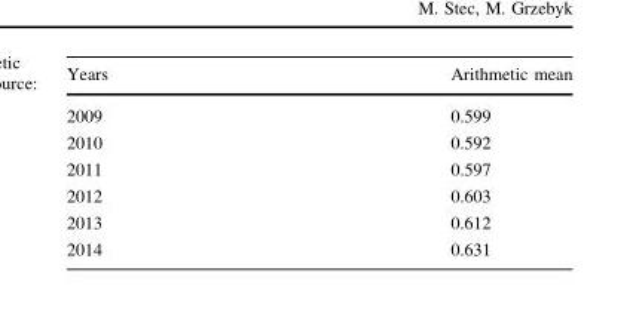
<table><thead><tr><td>Years</td><td>Arithmetic mean</td></tr></thead><tbody><tr><td>2009</td><td>0.599</td></tr><tr><td>2010</td><td>0.592</td></tr><tr><td>2011</td><td>0.597</td></tr><tr><td>2012</td><td>0.603</td></tr><tr><td>2013</td><td>0.612</td></tr><tr><td>2014</td><td>0.631</td></tr></tbody></table>